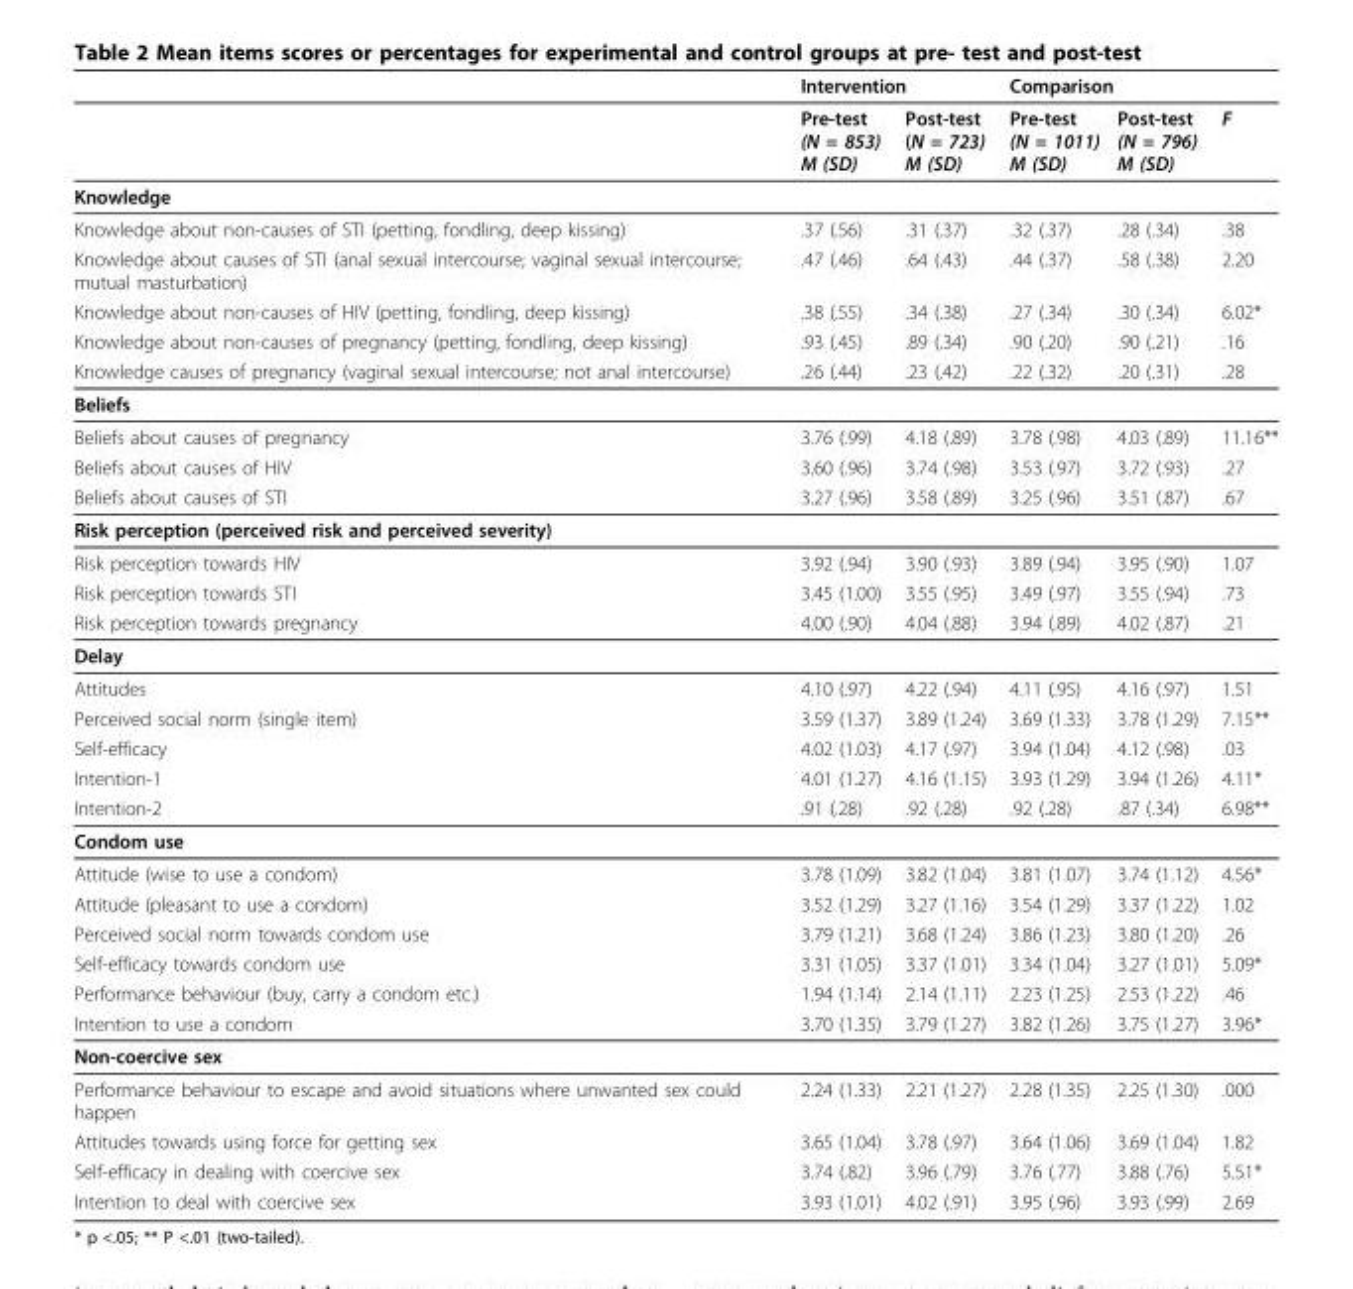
<table><thead><tr><td rowspan="2"></td><td colspan="2">Intervention</td><td colspan="2">Comparison</td><td rowspan="2">F</td></tr><tr><td>Pre-test (N = 853) M (SD)</td><td>Post-test (N = 723) M (SD)</td><td>Pre-test (N = 1011) M (SD)</td><td>Post-test (N = 796) M (SD)</td></tr></thead><tbody><tr><td colspan="6">Knowledge</td></tr><tr><td>Knowledge about non-causes of STI (petting, fondling, deep kissing)</td><td>.37 (.56)</td><td>.31 (.37)</td><td>.32 (.37)</td><td>.28 (.34)</td><td>.38</td></tr><tr><td>Knowledge about causes of STI (anal sexual intercourse; vaginal sexual intercourse; mutual masturbation)</td><td>.47 (.46)</td><td>.64 (.43)</td><td>.44 (.37)</td><td>.58 (.38)</td><td>2.20</td></tr><tr><td>Knowledge about non-causes of HIV (petting, fondling, deep kissing)</td><td>.38 (.55)</td><td>.34 (.38)</td><td>.27 (.34)</td><td>.30 (.34)</td><td>6.02*</td></tr><tr><td>Knowledge about non-causes of pregnancy (petting, fondling, deep kissing)</td><td>.93 (.45)</td><td>.89 (.34)</td><td>.90 (.20)</td><td>.90 (.21)</td><td>.16</td></tr><tr><td>Knowledge causes of pregnancy (vaginal sexual intercourse; not anal intercourse)</td><td>.26 (.44)</td><td>.23 (.42)</td><td>.22 (.32)</td><td>.20 (.31)</td><td>.28</td></tr><tr><td colspan="6">Beliefs</td></tr><tr><td>Beliefs about causes of pregnancy</td><td>3.76 (.99)</td><td>4.18 (.89)</td><td>3.78 (.98)</td><td>4.03 (.89)</td><td>11.16**</td></tr><tr><td>Beliefs about causes of HIV</td><td>3.60 (.96)</td><td>3.74 (.98)</td><td>3.53 (.97)</td><td>3.72 (.93)</td><td>.27</td></tr><tr><td>Beliefs about causes of STI</td><td>3.27 (.96)</td><td>3.58 (.89)</td><td>3.25 (.96)</td><td>3.51 (.87)</td><td>.67</td></tr><tr><td colspan="6">Risk perception (perceived risk and perceived severity)</td></tr><tr><td>Risk perception towards HIV</td><td>3.92 (.94)</td><td>3.90 (.93)</td><td>3.89 (.94)</td><td>3.95 (.90)</td><td>1.07</td></tr><tr><td>Risk perception towards STI</td><td>3.45 (1.00)</td><td>3.55 (.95)</td><td>3.49 (.97)</td><td>3.55 (.94)</td><td>.73</td></tr><tr><td>Risk perception towards pregnancy</td><td>4.00 (.90)</td><td>4.04 (.88)</td><td>3.94 (.89)</td><td>4.02 (.87)</td><td>.21</td></tr><tr><td colspan="6">Delay</td></tr><tr><td>Attitudes</td><td>4.10 (.97)</td><td>4.22 (.94)</td><td>4.11 (.95)</td><td>4.16 (.97)</td><td>1.51</td></tr><tr><td>Perceived social norm (single item)</td><td>3.59 (1.37)</td><td>3.89 (1.24)</td><td>3.69 (1.33)</td><td>3.78 (1.29)</td><td>7.15**</td></tr><tr><td>Self-efficacy</td><td>4.02 (1.03)</td><td>4.17 (.97)</td><td>3.94 (1.04)</td><td>4.12 (.98)</td><td>.03</td></tr><tr><td>Intention-1</td><td>4.01 (1.27)</td><td>4.16 (1.15)</td><td>3.93 (1.29)</td><td>3.94 (1.26)</td><td>4.11*</td></tr><tr><td>Intention-2</td><td>.91 (.28)</td><td>.92 (.28)</td><td>.92 (.28)</td><td>.87 (.34)</td><td>6.98**</td></tr><tr><td colspan="6">Condom use</td></tr><tr><td>Attitude (wise to use a condom)</td><td>3.78 (1.09)</td><td>3.82 (1.04)</td><td>3.81 (1.07)</td><td>3.74 (1.12)</td><td>4.56*</td></tr><tr><td>Attitude (pleasant to use a condom)</td><td>3.52 (1.29)</td><td>3.27 (1.16)</td><td>3.54 (1.29)</td><td>3.37 (1.22)</td><td>1.02</td></tr><tr><td>Perceived social norm towards condom use</td><td>3.79 (1.21)</td><td>3.68 (1.24)</td><td>3.86 (1.23)</td><td>3.80 (1.20)</td><td>.26</td></tr><tr><td>Self-efficacy towards condom use</td><td>3.31 (1.05)</td><td>3.37 (1.01)</td><td>3.34 (1.04)</td><td>3.27 (1.01)</td><td>5.09*</td></tr><tr><td>Performance behaviour (buy, carry a condom etc.)</td><td>1.94 (1.14)</td><td>2.14 (1.11)</td><td>2.23 (1.25)</td><td>2.53 (1.22)</td><td>.46</td></tr><tr><td>Intention to use a condom</td><td>3.70 (1.35)</td><td>3.79 (1.27)</td><td>3.82 (1.26)</td><td>3.75 (1.27)</td><td>3.96*</td></tr><tr><td colspan="6">Non-coercive sex</td></tr><tr><td>Performance behaviour to escape and avoid situations where unwanted sex could happen</td><td>2.24 (1.33)</td><td>2.21 (1.27)</td><td>2.28 (1.35)</td><td>2.25 (1.30)</td><td>.000</td></tr><tr><td>Attitudes towards using force for getting sex</td><td>3.65 (1.04)</td><td>3.78 (.97)</td><td>3.64 (1.06)</td><td>3.69 (1.04)</td><td>1.82</td></tr><tr><td>Self-efficacy in dealing with coercive sex</td><td>3.74 (.82)</td><td>3.96 (.79)</td><td>3.76 (.77)</td><td>3.88 (.76)</td><td>5.51*</td></tr><tr><td>Intention to deal with coercive sex</td><td>3.93 (1.01)</td><td>4.02 (.91)</td><td>3.95 (.96)</td><td>3.93 (.99)</td><td>2.69</td></tr></tbody></table>